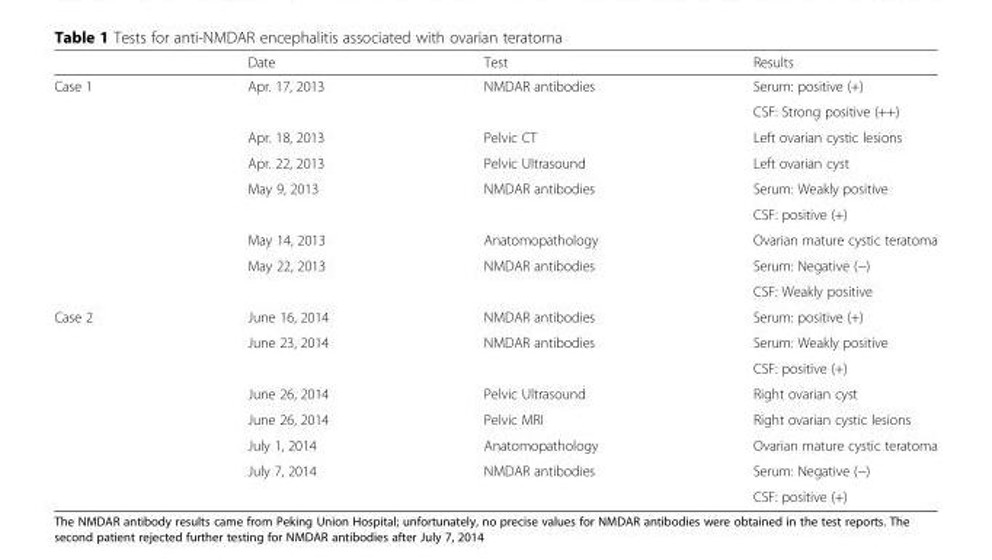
<table><thead><tr><td></td><td>Date</td><td>Test</td><td>Results</td></tr></thead><tbody><tr><td rowspan="9">Case 1</td><td rowspan="2">Apr. 17, 2013</td><td rowspan="2">NMDAR antibodies</td><td>Serum: positive (+)</td></tr><tr><td>CSF: Strong positive (++)</td></tr><tr><td>Apr. 18, 2013</td><td>Pelvic CT</td><td>Left ovarian cystic lesions</td></tr><tr><td>Apr. 22, 2013</td><td>Pelvic Ultrasound</td><td>Left ovarian cyst</td></tr><tr><td rowspan="2">May 9, 2013</td><td rowspan="2">NMDAR antibodies</td><td>Serum: Weakly positive</td></tr><tr><td>CSF: positive (+)</td></tr><tr><td>May 14, 2013</td><td>Anatomopathology</td><td>Ovarian mature cystic teratoma</td></tr><tr><td rowspan="2">May 22, 2013</td><td rowspan="2">NMDAR antibodies</td><td>Serum: Negative (−)</td></tr><tr><td>CSF: Weakly positive</td></tr><tr><td rowspan="8">Case 2</td><td>June 16, 2014</td><td>NMDAR antibodies</td><td>Serum: positive (+)</td></tr><tr><td rowspan="2">June 23, 2014</td><td rowspan="2">NMDAR antibodies</td><td>Serum: Weakly positive</td></tr><tr><td>CSF: positive (+)</td></tr><tr><td>June 26, 2014</td><td>Pelvic Ultrasound</td><td>Right ovarian cyst</td></tr><tr><td>June 26, 2014</td><td>Pelvic MRI</td><td>Right ovarian cystic lesions</td></tr><tr><td>July 1, 2014</td><td>Anatomopathology</td><td>Ovarian mature cystic teratoma</td></tr><tr><td rowspan="2">July 7, 2014</td><td rowspan="2">NMDAR antibodies</td><td>Serum: Negative (−)</td></tr><tr><td>CSF: positive (+)</td></tr></tbody></table>